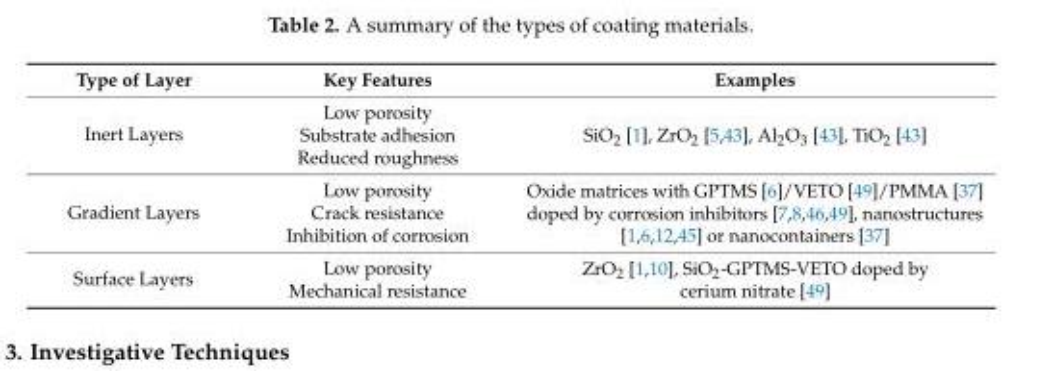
<table><thead><tr><td>Type of Layer</td><td>Key Features</td><td>Examples</td></tr></thead><tbody><tr><td rowspan="3">Inert Layers</td><td>Low porosity</td><td rowspan="3">SiO<sub>2</sub> [1], ZrO<sub>2</sub> [5,43], Al<sub>2</sub>O<sub>3</sub> [43], TiO<sub>2</sub> [43]</td></tr><tr><td>Substrate adhesion</td></tr><tr><td>Reduced roughness</td></tr><tr><td rowspan="3">Gradient Layers</td><td>Low porosity</td><td rowspan="3">Oxide matrices with GPTMS [6]/VETO [49]/PMMA [37] doped by corrosion inhibitors [7,8,46,49], nanostructures [1,6,12,45] or nanocontainers [37]</td></tr><tr><td>Crack resistance</td></tr><tr><td>Inhibition of corrosion</td></tr><tr><td rowspan="2">Surface Layers</td><td>Low porosity</td><td rowspan="2">ZrO<sub>2</sub> [1,10], SiO<sub>2</sub>-GPTMS-VETO doped by cerium nitrate [49]</td></tr><tr><td>Mechanical resistance</td></tr></tbody></table>